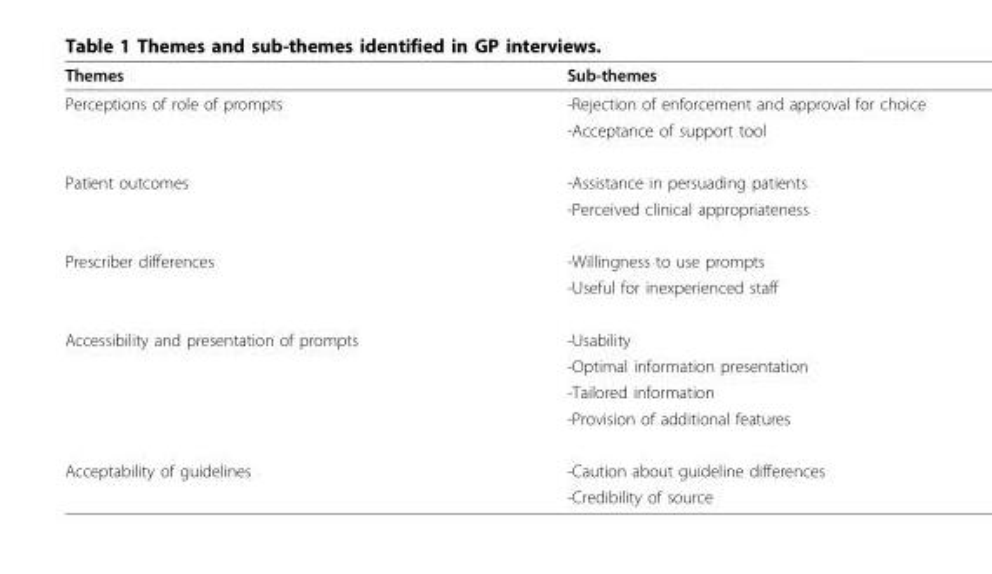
<table><thead><tr><td>Themes</td><td>Sub-themes</td></tr></thead><tbody><tr><td rowspan="2">Perceptions of role of prompts</td><td>-Rejection of enforcement and approval for choice</td></tr><tr><td>-Acceptance of support tool</td></tr><tr><td rowspan="2">Patient outcomes</td><td>-Assistance in persuading patients</td></tr><tr><td>-Perceived clinical appropriateness</td></tr><tr><td rowspan="2">Prescriber differences</td><td>-Willingness to use prompts</td></tr><tr><td>-Useful for inexperienced staff</td></tr><tr><td rowspan="4">Accessibility and presentation of prompts</td><td>-Usability</td></tr><tr><td>-Optimal information presentation</td></tr><tr><td>-Tailored information</td></tr><tr><td>-Provision of additional features</td></tr><tr><td rowspan="2">Acceptability of guidelines</td><td>-Caution about guideline differences</td></tr><tr><td>-Credibility of source</td></tr></tbody></table>